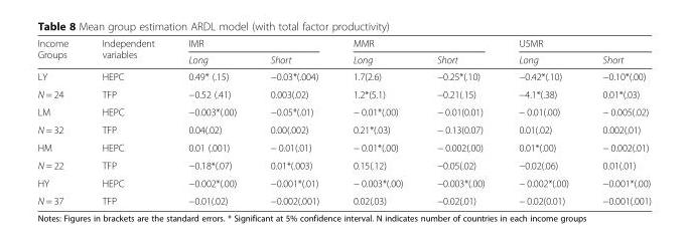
<table><thead><tr><td rowspan="2">Income Groups</td><td rowspan="2">Independent variables</td><td colspan="2">IMR</td><td colspan="2">MMR</td><td colspan="2">U5MR</td></tr><tr><td>Long</td><td>Short</td><td>Long</td><td>Short</td><td>Long</td><td>Short</td></tr></thead><tbody><tr><td>LY</td><td>HEPC</td><td>0.49* (.15)</td><td>−0.03*(.004)</td><td>1.7(2.6)</td><td>−0.25*(.10)</td><td>−0.42*(.10)</td><td>−0.10*(.00)</td></tr><tr><td>N = 24</td><td>TFP</td><td>−0.52 (.41)</td><td>0.003(.02)</td><td>1.2*(5.1)</td><td>−0.21(.15)</td><td>−4.1*(.38)</td><td>0.01*(.03)</td></tr><tr><td>LM</td><td>HEPC</td><td>−0.003*(.00)</td><td>−0.05*(.01)</td><td>− 0.01*(.00)</td><td>− 0.01(0.01)</td><td>− 0.01(.00)</td><td>− 0.005(.02)</td></tr><tr><td>N = 32</td><td>TFP</td><td>0.04(.02)</td><td>0.00(.002)</td><td>0.21*(.03)</td><td>− 0.13(0.07)</td><td>0.01(.02)</td><td>0.002(.01)</td></tr><tr><td>HM</td><td>HEPC</td><td>0.01 (.001)</td><td>− 0.01(.01)</td><td>− 0.01*(.00)</td><td>− 0.002(.00)</td><td>0.01*(.00)</td><td>− 0.002(.01)</td></tr><tr><td>N = 22</td><td>TFP</td><td>−0.18*(.07)</td><td>0.01*(.003)</td><td>0.15(.12)</td><td>−0.05(.02)</td><td>−0.02(.06)</td><td>0.01(.01)</td></tr><tr><td>HY</td><td>HEPC</td><td>−0.002*(.00)</td><td>−0.001*(.01)</td><td>− 0.003*(.00)</td><td>−0.003*(.00)</td><td>− 0.002*(.00)</td><td>−0.001*(.00)</td></tr><tr><td>N = 37</td><td>TFP</td><td>−0.01(.02)</td><td>−0.002(.001)</td><td>0.02(.03)</td><td>−0.02(.01)</td><td>− 0.02(0.01)</td><td>−0.001(.001)</td></tr></tbody></table>